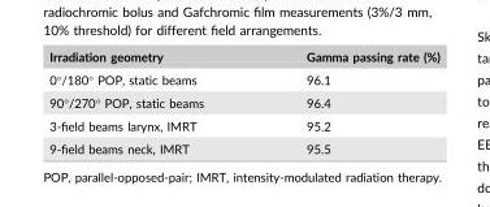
<table><thead><tr><td>Irradiation geometry</td><td>Gamma passing rate (%)</td></tr></thead><tbody><tr><td>0°/180° POP, static beams</td><td>96.1</td></tr><tr><td>90°/270° POP, static beams</td><td>96.4</td></tr><tr><td>3-field beams larynx, IMRT</td><td>95.2</td></tr><tr><td>9-field beams neck, IMRT</td><td>95.5</td></tr></tbody></table>